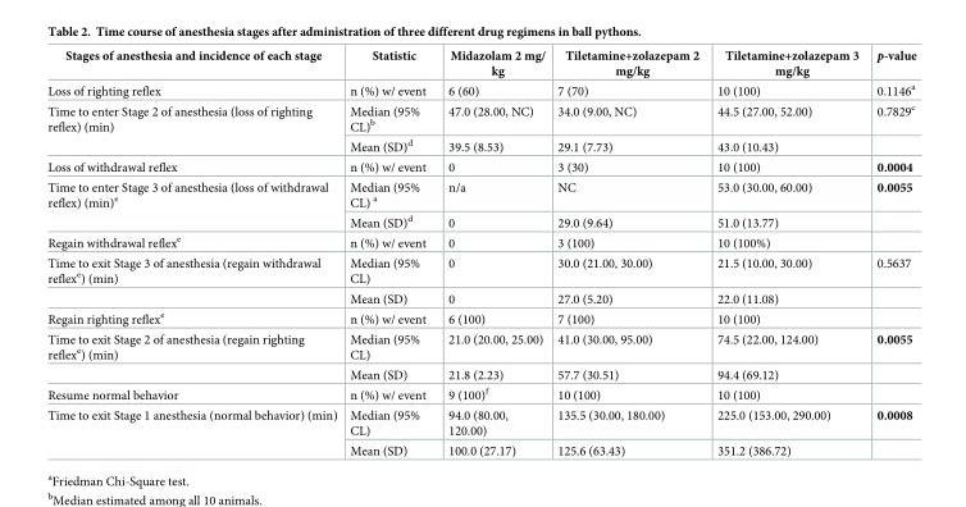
<table><thead><tr><td>Stages of anesthesia and incidence of each stage</td><td>Statistic</td><td>Midazolam 2 mg/ kg</td><td>Tiletamine+zolazepam 2 mg/kg</td><td>Tiletamine+zolazepam 3 mg/kg</td><td>p-value</td></tr></thead><tbody><tr><td>Loss of righting reflex</td><td>n (%) w/ event</td><td>6 (60)</td><td>7 (70)</td><td>10 (100)</td><td>0.1146<sup>a</sup></td></tr><tr><td rowspan="2">Time to enter Stage 2 of anesthesia (loss of righting reflex) (min)</td><td>Median (95% CL)<sup>b</sup></td><td>47.0 (28.00, NC)</td><td>34.0 (9.00, NC)</td><td>44.5 (27.00, 52.00)</td><td>0.7829<sup>c</sup></td></tr><tr><td>Mean (SD)<sup>d</sup></td><td>39.5 (8.53)</td><td>29.1 (7.73)</td><td>43.0 (10.43)</td><td></td></tr><tr><td>Loss of withdrawal reflex</td><td>n (%) w/ event</td><td>0</td><td>3 (30)</td><td>10 (100)</td><td>0.0004</td></tr><tr><td rowspan="2">Time to enter Stage 3 of anesthesia (loss of withdrawal reflex) (min)<sup>e</sup></td><td>Median (95% CL) <sup>a</sup></td><td>n/a</td><td>NC</td><td>53.0 (30.00, 60.00)</td><td>0.0055</td></tr><tr><td>Mean (SD)<sup>d</sup></td><td>0</td><td>29.0 (9.64)</td><td>51.0 (13.77)</td><td></td></tr><tr><td>Regain withdrawal reflex<sup>e</sup></td><td>n (%) w/ event</td><td>0</td><td>3 (100)</td><td>10 (100%)</td><td></td></tr><tr><td rowspan="2">Time to exit Stage 3 of anesthesia (regain withdrawal reflex<sup>e</sup>) (min)</td><td>Median (95% CL)</td><td>0</td><td>30.0 (21.00, 30.00)</td><td>21.5 (10.00, 30.00)</td><td>0.5637</td></tr><tr><td>Mean (SD)</td><td>0</td><td>27.0 (5.20)</td><td>22.0 (11.08)</td><td></td></tr><tr><td>Regain righting reflex<sup>e</sup></td><td>n (%) w/ event</td><td>6 (100)</td><td>7 (100)</td><td>10 (100)</td><td></td></tr><tr><td rowspan="2">Time to exit Stage 2 of anesthesia (regain righting reflex<sup>e</sup>) (min)</td><td>Median (95% CL)</td><td>21.0 (20.00, 25.00)</td><td>41.0 (30.00, 95.00)</td><td>74.5 (22.00, 124.00)</td><td>0.0055</td></tr><tr><td>Mean (SD)</td><td>21.8 (2.23)</td><td>57.7 (30.51)</td><td>94.4 (69.12)</td><td></td></tr><tr><td>Resume normal behavior</td><td>n (%) w/ event</td><td>9 (100)<sup>f</sup></td><td>10 (100)</td><td>10 (100)</td><td></td></tr><tr><td rowspan="2">Time to exit Stage 1 anesthesia (normal behavior) (min)</td><td>Median (95% CL)</td><td>94.0 (80.00, 120.00)</td><td>135.5 (30.00, 180.00)</td><td>225.0 (153.00, 290.00)</td><td>0.0008</td></tr><tr><td>Mean (SD)</td><td>100.0 (27.17)</td><td>125.6 (63.43)</td><td>351.2 (386.72)</td><td></td></tr></tbody></table>